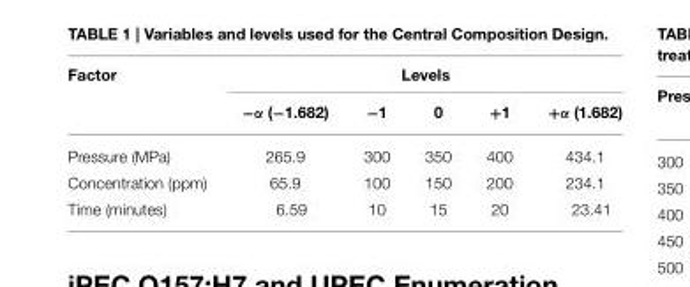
<table><thead><tr><td rowspan="2">Factor</td><td colspan="5">Levels</td></tr><tr><td>−α (−1.682)</td><td>−1</td><td>0</td><td>+1</td><td>+α (1.682)</td></tr></thead><tbody><tr><td>Pressure (MPa)</td><td>265.9</td><td>300</td><td>350</td><td>400</td><td>434.1</td></tr><tr><td>Concentration (ppm)</td><td>65.9</td><td>100</td><td>150</td><td>200</td><td>234.1</td></tr><tr><td>Time (minutes)</td><td>6.59</td><td>10</td><td>15</td><td>20</td><td>23.41</td></tr></tbody></table>